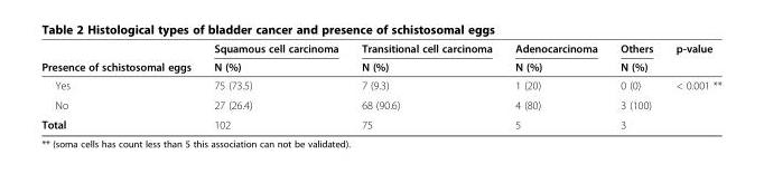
<table><thead><tr><td rowspan="2">Presence of schistosomal eggs</td><td rowspan="2">Squamous cell carcinoma N (%)</td><td rowspan="2">Transitional cell carcinoma N (%)</td><td rowspan="2">Adenocarcinoma N (%)</td><td rowspan="2">Others N (%)</td><td rowspan="2">p-value</td></tr><tr></tr></thead><tbody><tr><td>Yes</td><td>75 (73.5)</td><td>7 (9.3)</td><td>1 (20)</td><td>0 (0)</td><td>&lt; 0.001 **</td></tr><tr><td>No</td><td>27 (26.4)</td><td>68 (90.6)</td><td>4 (80)</td><td>3 (100)</td><td></td></tr><tr><td>Total</td><td>102</td><td>75</td><td>5</td><td>3</td><td></td></tr></tbody></table>